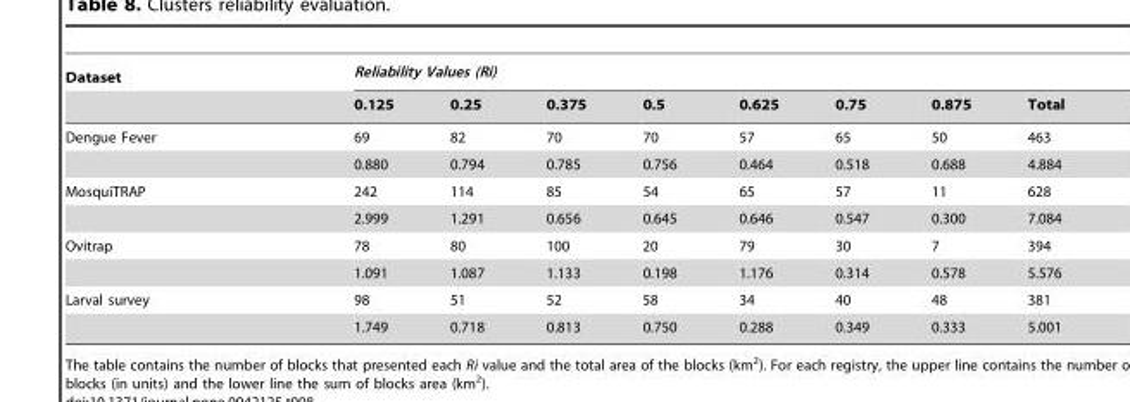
<table><thead><tr><td rowspan="2">Dataset</td><td colspan="8">Reliability Values (Ri)</td></tr><tr><td>0.125</td><td>0.25</td><td>0.375</td><td>0.5</td><td>0.625</td><td>0.75</td><td>0.875</td><td>Total</td></tr></thead><tbody><tr><td rowspan="2">Dengue Fever</td><td>69</td><td>82</td><td>70</td><td>70</td><td>57</td><td>65</td><td>50</td><td>463</td></tr><tr><td>0.880</td><td>0.794</td><td>0.785</td><td>0.756</td><td>0.464</td><td>0.518</td><td>0.688</td><td>4.884</td></tr><tr><td rowspan="2">MosquiTRAP</td><td>242</td><td>114</td><td>85</td><td>54</td><td>65</td><td>57</td><td>11</td><td>628</td></tr><tr><td>2.999</td><td>1.291</td><td>0.656</td><td>0.645</td><td>0.646</td><td>0.547</td><td>0.300</td><td>7.084</td></tr><tr><td rowspan="2">Ovitrap</td><td>78</td><td>80</td><td>100</td><td>20</td><td>79</td><td>30</td><td>7</td><td>394</td></tr><tr><td>1.091</td><td>1.087</td><td>1.133</td><td>0.198</td><td>1.176</td><td>0.314</td><td>0.578</td><td>5.576</td></tr><tr><td rowspan="2">Larval survey</td><td>98</td><td>51</td><td>52</td><td>58</td><td>34</td><td>40</td><td>48</td><td>381</td></tr><tr><td>1.749</td><td>0.718</td><td>0.813</td><td>0.750</td><td>0.288</td><td>0.349</td><td>0.333</td><td>5.001</td></tr></tbody></table>